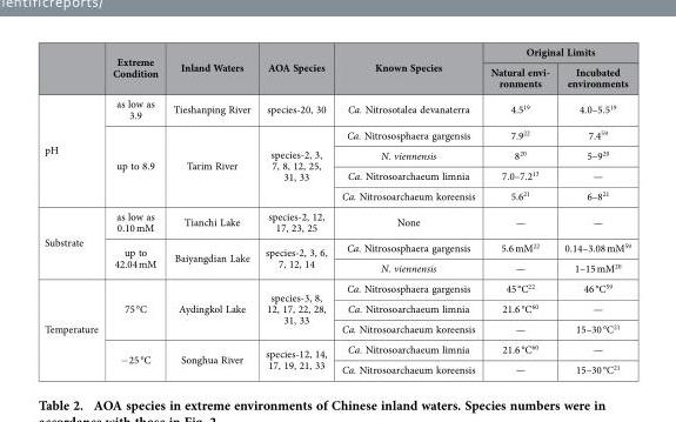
<table><thead><tr><td rowspan="2"></td><td rowspan="2">Extreme Condition</td><td rowspan="2">Inland Waters</td><td rowspan="2">AOA Species</td><td rowspan="2">Known Species</td><td colspan="2">Original Limits</td></tr><tr><td>Natural envi- ronments</td><td>Incubated environments</td></tr></thead><tbody><tr><td rowspan="5">pH</td><td>as low as 3.9</td><td>Tieshanping River</td><td>species-20, 30</td><td>Ca. Nitrosotalea devanaterra</td><td>4.5<sup>19</sup></td><td>4.0–5.5<sup>19</sup></td></tr><tr><td rowspan="4">up to 8.9</td><td rowspan="4">Tarim River</td><td rowspan="4">species-2, 3, 7, 8, 12, 25, 31, 33</td><td>Ca. Nitrososphaera gargensis</td><td>7.9<sup>22</sup></td><td>7.4<sup>59</sup></td></tr><tr><td>N. viennensis</td><td>8<sup>20</sup></td><td>5–9<sup>20</sup></td></tr><tr><td>Ca. Nitrosoarchaeum limnia</td><td>7.0–7.2<sup>13</sup></td><td>—</td></tr><tr><td>Ca. Nitrosoarchaeum koreensis</td><td>5.6<sup>21</sup></td><td>6–8<sup>21</sup></td></tr><tr><td rowspan="3">Substrate</td><td>as low as 0.10 mM</td><td>Tianchi Lake</td><td>species-2, 12, 17, 23, 25</td><td>None</td><td>—</td><td>—</td></tr><tr><td rowspan="2">up to 42.04 mM</td><td rowspan="2">Baiyangdian Lake</td><td rowspan="2">species-2, 3, 6, 7, 12, 14</td><td>Ca. Nitrososphaera gargensis</td><td>5.6 mM<sup>22</sup></td><td>0.14–3.08 mM<sup>59</sup></td></tr><tr><td>N. viennensis</td><td>—</td><td>1–15 mM<sup>20</sup></td></tr><tr><td rowspan="5">Temperature</td><td rowspan="3">75 °C</td><td rowspan="3">Aydingkol Lake</td><td rowspan="3">species-3, 8, 12, 17, 22, 28, 31, 33</td><td>Ca. Nitrososphaera gargensis</td><td>45 °C<sup>22</sup></td><td>46 °C<sup>59</sup></td></tr><tr><td>Ca. Nitrosoarchaeum limnia</td><td>21.6 °C<sup>60</sup></td><td>—</td></tr><tr><td>Ca. Nitrosoarchaeum koreensis</td><td>—</td><td>15–30 °C<sup>21</sup></td></tr><tr><td rowspan="2">− 25 °C</td><td rowspan="2">Songhua River</td><td rowspan="2">species-12, 14, 17, 19, 21, 33</td><td>Ca. Nitrosoarchaeum limnia</td><td>21.6 °C<sup>60</sup></td><td>—</td></tr><tr><td>Ca. Nitrosoarchaeum koreensis</td><td>—</td><td>15–30 °C<sup>21</sup></td></tr></tbody></table>